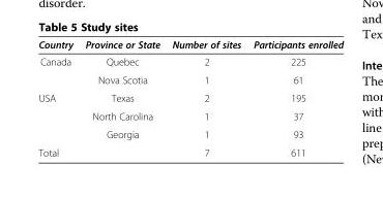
<table><thead><tr><td>Country</td><td>Province or State</td><td>Number of sites</td><td>Participants enrolled</td></tr></thead><tbody><tr><td rowspan="2">Canada</td><td>Quebec</td><td>2</td><td>225</td></tr><tr><td>Nova Scotia</td><td>1</td><td>61</td></tr><tr><td rowspan="3">USA</td><td>Texas</td><td>2</td><td>195</td></tr><tr><td>North Carolina</td><td>1</td><td>37</td></tr><tr><td>Georgia</td><td>1</td><td>93</td></tr><tr><td>Total</td><td></td><td>7</td><td>611</td></tr></tbody></table>